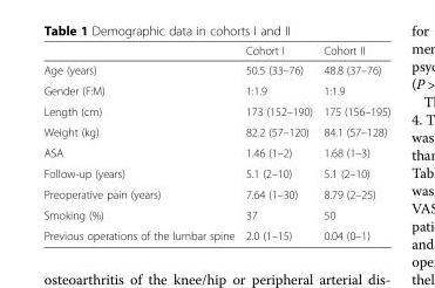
<table><thead><tr><td></td><td>Cohort I</td><td>Cohort II</td></tr></thead><tbody><tr><td>Age (years)</td><td>50.5 (33–76)</td><td>48.8 (37–76)</td></tr><tr><td>Gender (F:M)</td><td>1:1.9</td><td>1:1.9</td></tr><tr><td>Length (cm)</td><td>173 (152–190)</td><td>175 (156–195)</td></tr><tr><td>Weight (kg)</td><td>82.2 (57–120)</td><td>84.1 (57–128)</td></tr><tr><td>ASA</td><td>1.46 (1–2)</td><td>1.68 (1–3)</td></tr><tr><td>Follow-up (years)</td><td>5.1 (2–10)</td><td>5.1 (2–10)</td></tr><tr><td>Preoperative pain (years)</td><td>7.64 (1–30)</td><td>8.79 (2–25)</td></tr><tr><td>Smoking (%)</td><td>37</td><td>50</td></tr><tr><td>Previous operations of the lumbar spine</td><td>2.0 (1–15)</td><td>0.04 (0–1)</td></tr></tbody></table>